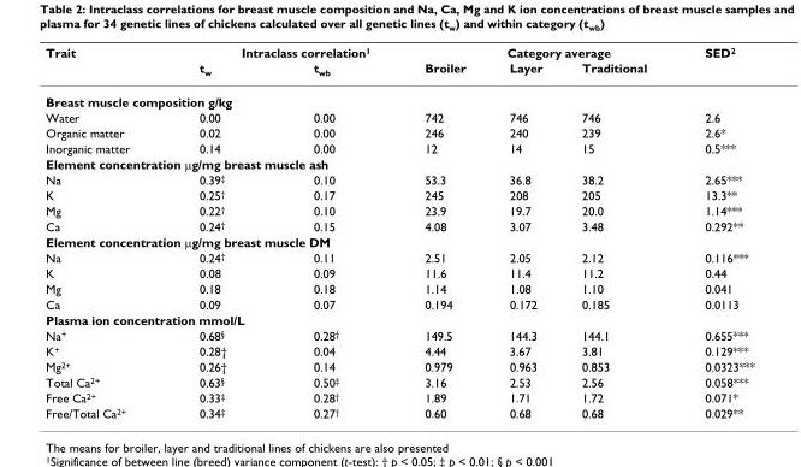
<table><thead><tr><td rowspan="2">Trait</td><td colspan="2">Intraclass correlation<sup>1</sup></td><td colspan="3">Category average</td><td rowspan="2">SED<sup>2</sup></td></tr><tr><td>t<sub>w</sub></td><td>t<sub>wb</sub></td><td>Broiler</td><td>Layer</td><td>Traditional</td></tr></thead><tbody><tr><td colspan="7">Breast muscle composition g/kg</td></tr><tr><td>Water</td><td>0.00</td><td>0.00</td><td>742</td><td>746</td><td>746</td><td>2.6</td></tr><tr><td>Organic matter</td><td>0.02</td><td>0.00</td><td>246</td><td>240</td><td>239</td><td>2.6*</td></tr><tr><td>Inorganic matter</td><td>0.14</td><td>0.00</td><td>12</td><td>14</td><td>15</td><td>0.5***</td></tr><tr><td colspan="7">Element concentration μg/mg breast muscle ash</td></tr><tr><td>Na</td><td>0.39<sup>‡</sup></td><td>0.10</td><td>53.3</td><td>36.8</td><td>38.2</td><td>2.65***</td></tr><tr><td>K</td><td>0.25<sup>†</sup></td><td>0.17</td><td>245</td><td>208</td><td>205</td><td>13.3**</td></tr><tr><td>Mg</td><td>0.22<sup>†</sup></td><td>0.10</td><td>23.9</td><td>19.7</td><td>20.0</td><td>1.14***</td></tr><tr><td>Ca</td><td>0.24<sup>†</sup></td><td>0.15</td><td>4.08</td><td>3.07</td><td>3.48</td><td>0.292**</td></tr><tr><td colspan="7">Element concentration μg/mg breast muscle DM</td></tr><tr><td>Na</td><td>0.24<sup>†</sup></td><td>0.11</td><td>2.51</td><td>2.05</td><td>2.12</td><td>0.116***</td></tr><tr><td>K</td><td>0.08</td><td>0.09</td><td>11.6</td><td>11.4</td><td>11.2</td><td>0.44</td></tr><tr><td>Mg</td><td>0.18</td><td>0.18</td><td>1.14</td><td>1.08</td><td>1.10</td><td>0.041</td></tr><tr><td>Ca</td><td>0.09</td><td>0.07</td><td>0.194</td><td>0.172</td><td>0.185</td><td>0.0113</td></tr><tr><td colspan="7">Plasma ion concentration mmol/L</td></tr><tr><td>Na<sup>+</sup></td><td>0.68<sup>§</sup></td><td>0.28<sup>†</sup></td><td>149.5</td><td>144.3</td><td>144.1</td><td>0.655***</td></tr><tr><td>K<sup>+</sup></td><td>0.28†</td><td>0.04</td><td>4.44</td><td>3.67</td><td>3.81</td><td>0.129***</td></tr><tr><td>Mg<sup>2+</sup></td><td>0.26†</td><td>0.14</td><td>0.979</td><td>0.963</td><td>0.853</td><td>0.0323***</td></tr><tr><td>Total Ca<sup>2+</sup></td><td>0.63<sup>§</sup></td><td>0.50<sup>‡</sup></td><td>3.16</td><td>2.53</td><td>2.56</td><td>0.058***</td></tr><tr><td>Free Ca<sup>2+</sup></td><td>0.33<sup>‡</sup></td><td>0.28<sup>†</sup></td><td>1.89</td><td>1.71</td><td>1.72</td><td>0.071*</td></tr><tr><td>Free/Total Ca<sup>2+</sup></td><td>0.34<sup>‡</sup></td><td>0.27<sup>†</sup></td><td>0.60</td><td>0.68</td><td>0.68</td><td>0.029**</td></tr></tbody></table>